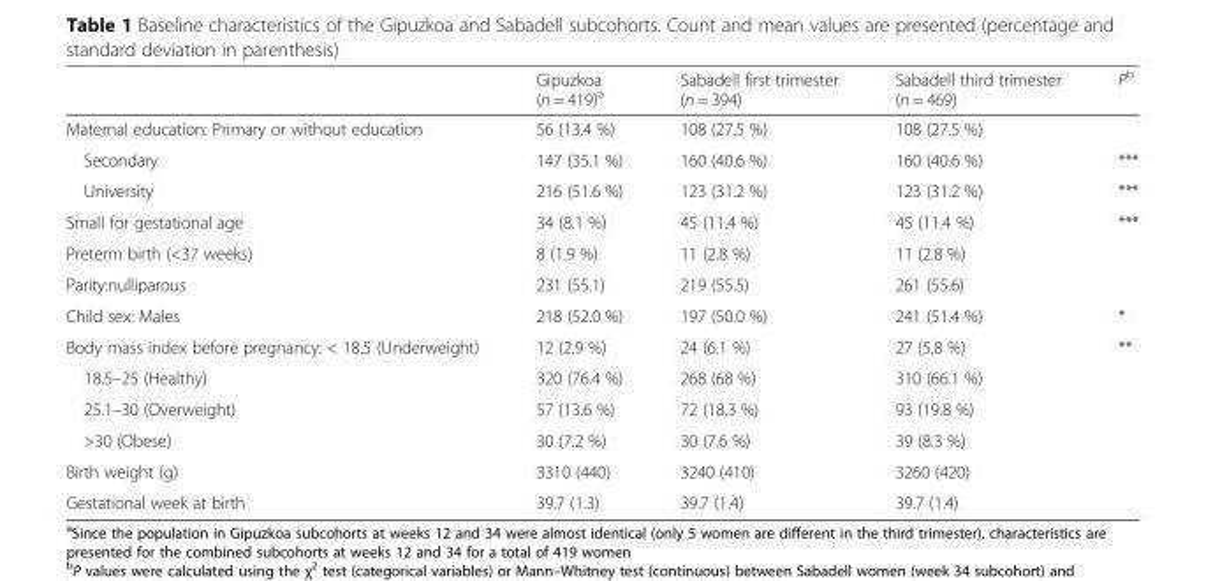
<table><thead><tr><td></td><td>Gipuzkoa (n = 419)<sup>a</sup></td><td>Sabadell first trimester (n = 394)</td><td>Sabadell third trimester (n = 469)</td><td>P<sup>b</sup></td></tr></thead><tbody><tr><td>Maternal education: Primary or without education</td><td>56 (13.4 %)</td><td>108 (27.5 %)</td><td>108 (27.5 %)</td><td></td></tr><tr><td>Secondary</td><td>147 (35.1 %)</td><td>160 (40.6 %)</td><td>160 (40.6 %)</td><td>***</td></tr><tr><td>University</td><td>216 (51.6 %)</td><td>123 (31.2 %)</td><td>123 (31.2 %)</td><td>***</td></tr><tr><td>Small for gestational age</td><td>34 (8.1 %)</td><td>45 (11.4 %)</td><td>45 (11.4 %)</td><td>***</td></tr><tr><td>Preterm birth (&lt;37 weeks)</td><td>8 (1.9 %)</td><td>11 (2.8 %)</td><td>11 (2.8 %)</td><td></td></tr><tr><td>Parity:nulliparous</td><td>231 (55.1)</td><td>219 (55.5)</td><td>261 (55.6)</td><td></td></tr><tr><td>Child sex: Males</td><td>218 (52.0 %)</td><td>197 (50.0 %)</td><td>241 (51.4 %)</td><td>*</td></tr><tr><td>Body mass index before pregnancy: &lt; 18.5 (Underweight)</td><td>12 (2.9 %)</td><td>24 (6.1 %)</td><td>27 (5.8 %)</td><td>**</td></tr><tr><td>18.5–25 (Healthy)</td><td>320 (76.4 %)</td><td>268 (68 %)</td><td>310 (66.1 %)</td><td></td></tr><tr><td>25.1–30 (Overweight)</td><td>57 (13.6 %)</td><td>72 (18.3 %)</td><td>93 (19.8 %)</td><td></td></tr><tr><td>&gt;30 (Obese)</td><td>30 (7.2 %)</td><td>30 (7.6 %)</td><td>39 (8.3 %)</td><td></td></tr><tr><td>Birth weight (g)</td><td>3310 (440)</td><td>3240 (410)</td><td>3260 (420)</td><td></td></tr><tr><td>Gestational week at birth</td><td>39.7 (1.3)</td><td>39.7 (1.4)</td><td>39.7 (1.4)</td><td></td></tr></tbody></table>